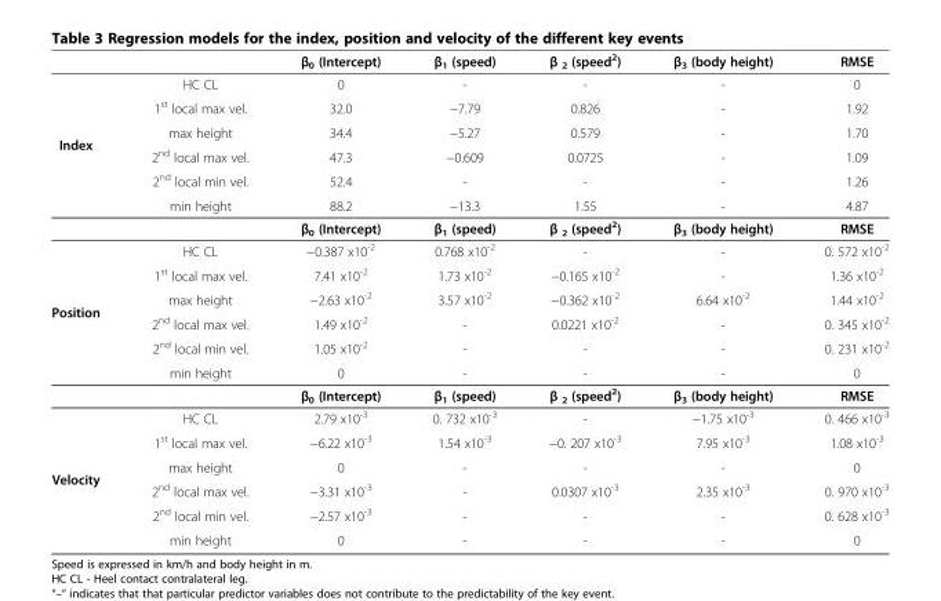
<table><thead><tr><td></td><td></td><td>β<sub>0</sub> (Intercept)</td><td>β<sub>1</sub> (speed)</td><td>β <sub>2</sub> (speed<sup>2</sup>)</td><td>β<sub>3</sub> (body height)</td><td>RMSE</td></tr></thead><tbody><tr><td rowspan="7">Index</td><td>HC CL</td><td>0</td><td>-</td><td>-</td><td>-</td><td>0</td></tr><tr><td>1<sup>st</sup> local max vel.</td><td>32.0</td><td>−7.79</td><td>0.826</td><td>-</td><td>1.92</td></tr><tr><td>max height</td><td>34.4</td><td>−5.27</td><td>0.579</td><td>-</td><td>1.70</td></tr><tr><td>2<sup>nd</sup> local max vel.</td><td>47.3</td><td>−0.609</td><td>0.0725</td><td>-</td><td>1.09</td></tr><tr><td>2<sup>nd</sup> local min vel.</td><td>52.4</td><td>-</td><td>-</td><td>-</td><td>1.26</td></tr><tr><td>min height</td><td>88.2</td><td>−13.3</td><td>1.55</td><td>-</td><td>4.87</td></tr><tr><td></td><td>β<sub>0</sub> (Intercept)</td><td>β<sub>1</sub> (speed)</td><td>β <sub>2</sub> (speed<sup>2</sup>)</td><td>β<sub>3</sub> (body height)</td><td>RMSE</td></tr><tr><td rowspan="7">Position</td><td>HC CL</td><td>−0.387 x10<sup>-2</sup></td><td>0.768 x10<sup>-2</sup></td><td>-</td><td>-</td><td>0. 572 x10<sup>-2</sup></td></tr><tr><td>1<sup>st</sup> local max vel.</td><td>7.41 x10<sup>-2</sup></td><td>1.73 x10<sup>-2</sup></td><td>−0.165 x10<sup>-2</sup></td><td>-</td><td>1.36 x10<sup>-2</sup></td></tr><tr><td>max height</td><td>−2.63 x10<sup>-2</sup></td><td>3.57 x10<sup>-2</sup></td><td>−0.362 x10<sup>-2</sup></td><td>6.64 x10<sup>-2</sup></td><td>1.44 x10<sup>-2</sup></td></tr><tr><td>2<sup>nd</sup> local max vel.</td><td>1.49 x10<sup>-2</sup></td><td>-</td><td>0.0221 x10<sup>-2</sup></td><td>-</td><td>0. 345 x10<sup>-2</sup></td></tr><tr><td>2<sup>nd</sup> local min vel.</td><td>1.05 x10<sup>-2</sup></td><td>-</td><td>-</td><td>-</td><td>0. 231 x10<sup>-2</sup></td></tr><tr><td>min height</td><td>0</td><td>-</td><td>-</td><td>-</td><td>0</td></tr><tr><td></td><td>β<sub>0</sub> (Intercept)</td><td>β<sub>1</sub> (speed)</td><td>β <sub>2</sub> (speed<sup>2</sup>)</td><td>β<sub>3</sub> (body height)</td><td>RMSE</td></tr><tr><td rowspan="6">Velocity</td><td>HC CL</td><td>2.79 x10<sup>-3</sup></td><td>0. 732 x10<sup>-3</sup></td><td>-</td><td>−1.75 x10<sup>-3</sup></td><td>0. 466 x10<sup>-3</sup></td></tr><tr><td>1<sup>st</sup> local max vel.</td><td>−6.22 x10<sup>-3</sup></td><td>1.54 x10<sup>-3</sup></td><td>−0. 207 x10<sup>-3</sup></td><td>7.95 x10<sup>-3</sup></td><td>1.08 x10<sup>-3</sup></td></tr><tr><td>max height</td><td>0</td><td>-</td><td>-</td><td>-</td><td>0</td></tr><tr><td>2<sup>nd</sup> local max vel.</td><td>−3.31 x10<sup>-3</sup></td><td>-</td><td>0.0307 x10<sup>-3</sup></td><td>2.35 x10<sup>-3</sup></td><td>0. 970 x10<sup>-3</sup></td></tr><tr><td>2<sup>nd</sup> local min vel.</td><td>−2.57 x10<sup>-3</sup></td><td>-</td><td>-</td><td>-</td><td>0. 628 x10<sup>-3</sup></td></tr><tr><td>min height</td><td>0</td><td>-</td><td>-</td><td>-</td><td>0</td></tr></tbody></table>